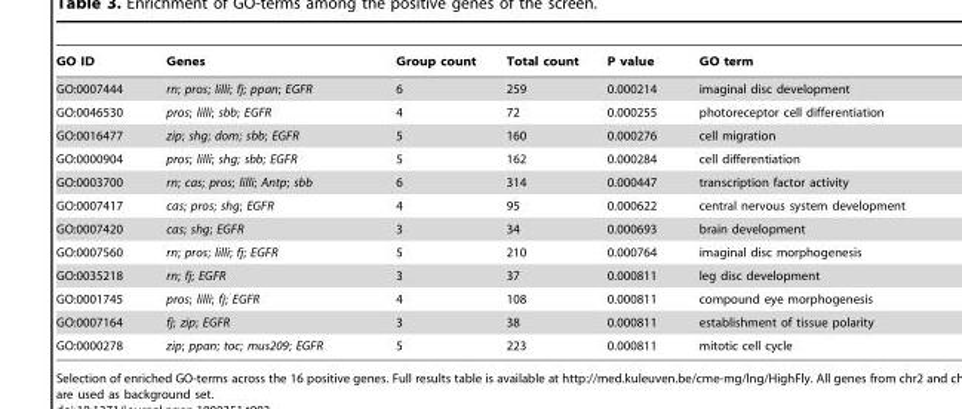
<table><thead><tr><td>GO ID</td><td>Genes</td><td>Group count</td><td>Total count</td><td>P value</td><td>GO term</td></tr></thead><tbody><tr><td>GO:0007444</td><td>rn; pros; lilli; fj; ppan; EGFR</td><td>6</td><td>259</td><td>0.000214</td><td>imaginal disc development</td></tr><tr><td>GO:0046530</td><td>pros; lilli; sbb; EGFR</td><td>4</td><td>72</td><td>0.000255</td><td>photoreceptor cell differentiation</td></tr><tr><td>GO:0016477</td><td>zip; shg; dom; sbb; EGFR</td><td>5</td><td>160</td><td>0.000276</td><td>cell migration</td></tr><tr><td>GO:0000904</td><td>pros; lilli; shg; sbb; EGFR</td><td>5</td><td>162</td><td>0.000284</td><td>cell differentiation</td></tr><tr><td>GO:0003700</td><td>rn; cas; pros; lilli; Antp; sbb</td><td>6</td><td>314</td><td>0.000447</td><td>transcription factor activity</td></tr><tr><td>GO:0007417</td><td>cas; pros; shg; EGFR</td><td>4</td><td>95</td><td>0.000622</td><td>central nervous system development</td></tr><tr><td>GO:0007420</td><td>cas; shg; EGFR</td><td>3</td><td>34</td><td>0.000693</td><td>brain development</td></tr><tr><td>GO:0007560</td><td>rn; pros; lilli; fj; EGFR</td><td>5</td><td>210</td><td>0.000764</td><td>imaginal disc morphogenesis</td></tr><tr><td>GO:0035218</td><td>rn; fj; EGFR</td><td>3</td><td>37</td><td>0.000811</td><td>leg disc development</td></tr><tr><td>GO:0001745</td><td>pros; lilli; fj; EGFR</td><td>4</td><td>108</td><td>0.000811</td><td>compound eye morphogenesis</td></tr><tr><td>GO:0007164</td><td>fj; zip; EGFR</td><td>3</td><td>38</td><td>0.000811</td><td>establishment of tissue polarity</td></tr><tr><td>GO:0000278</td><td>zip; ppan; toc; mus209; EGFR</td><td>5</td><td>223</td><td>0.000811</td><td>mitotic cell cycle</td></tr></tbody></table>